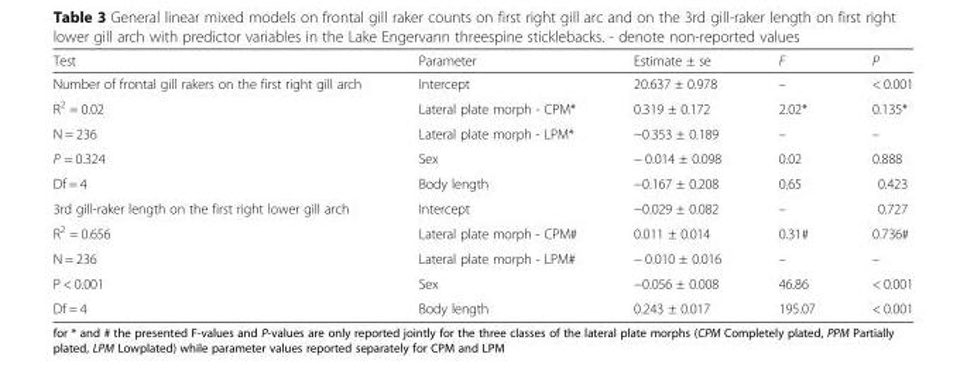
<table><thead><tr><td>Test</td><td>Parameter</td><td>Estimate ± se</td><td>F</td><td>P</td></tr></thead><tbody><tr><td>Number of frontal gill rakers on the first right gill arch</td><td>Intercept</td><td>20.637 ± 0.978</td><td>–</td><td>&lt; 0.001</td></tr><tr><td>R<sup>2</sup> = 0.02</td><td>Lateral plate morph - CPM*</td><td>0.319 ± 0.172</td><td>2.02*</td><td>0.135*</td></tr><tr><td>N = 236</td><td>Lateral plate morph - LPM*</td><td>−0.353 ± 0.189</td><td>–</td><td>–</td></tr><tr><td>P = 0.324</td><td>Sex</td><td>− 0.014 ± 0.098</td><td>0.02</td><td>0.888</td></tr><tr><td>Df = 4</td><td>Body length</td><td>−0.167 ± 0.208</td><td>0.65</td><td>0.423</td></tr><tr><td>3rd gill-raker length on the first right lower gill arch</td><td>Intercept</td><td>−0.029 ± 0.082</td><td>–</td><td>0.727</td></tr><tr><td>R<sup>2</sup> = 0.656</td><td>Lateral plate morph - CPM#</td><td>0.011 ± 0.014</td><td>0.31#</td><td>0.736#</td></tr><tr><td>N = 236</td><td>Lateral plate morph - LPM#</td><td>− 0.010 ± 0.016</td><td>–</td><td>–</td></tr><tr><td>P &lt; 0.001</td><td>Sex</td><td>−0.056 ± 0.008</td><td>46.86</td><td>&lt; 0.001</td></tr><tr><td>Df = 4</td><td>Body length</td><td>0.243 ± 0.017</td><td>195.07</td><td>&lt; 0.001</td></tr></tbody></table>